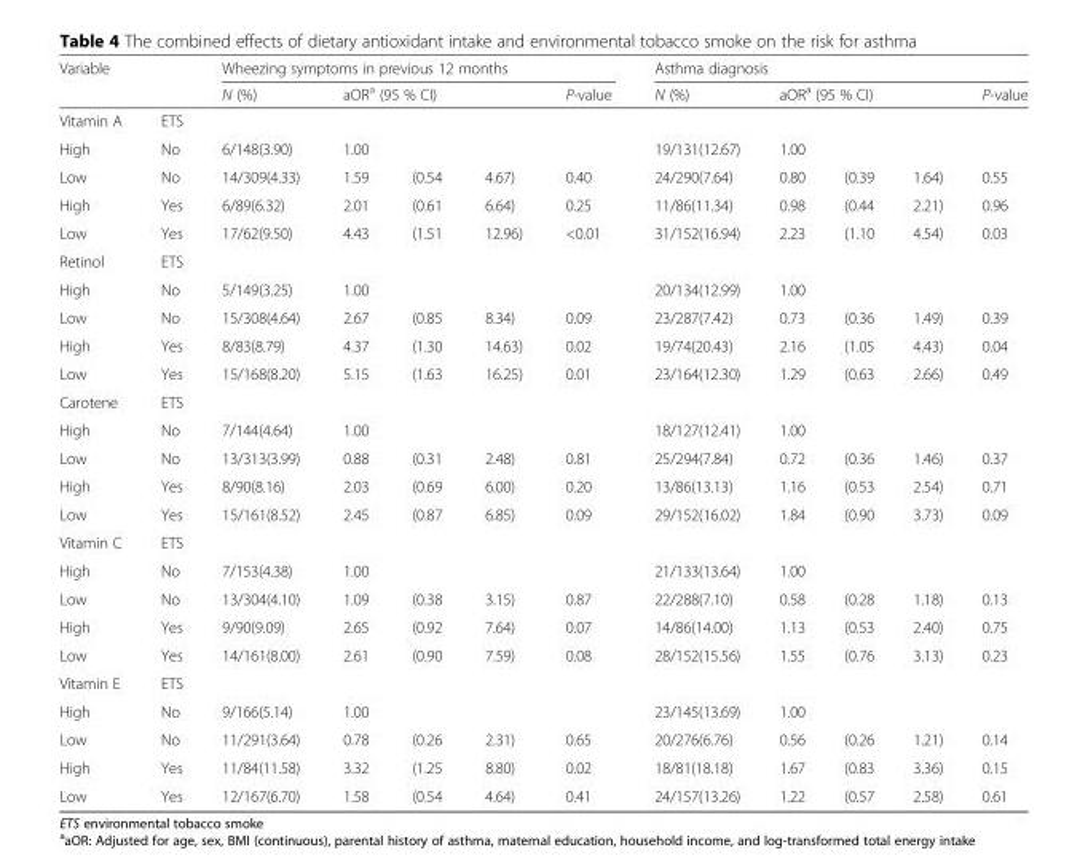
<table><thead><tr><td rowspan="2" colspan="2">Variable</td><td colspan="5">Wheezing symptoms in previous 12 months</td><td colspan="5">Asthma diagnosis</td></tr><tr><td rowspan="2">N (%)</td><td colspan="3">aOR<sup>a</sup> (95 % CI)</td><td rowspan="2">P-value</td><td rowspan="2">N (%)</td><td colspan="3">aOR<sup>a</sup> (95 % CI)</td><td rowspan="2">P-value</td></tr><tr><td>Vitamin A</td><td>ETS</td><td></td><td></td><td></td><td></td><td></td><td></td></tr></thead><tbody><tr><td>High</td><td>No</td><td>6/148(3.90)</td><td>1.00</td><td></td><td></td><td></td><td>19/131(12.67)</td><td>1.00</td><td></td><td></td><td></td></tr><tr><td>Low</td><td>No</td><td>14/309(4.33)</td><td>1.59</td><td>(0.54</td><td>4.67)</td><td>0.40</td><td>24/290(7.64)</td><td>0.80</td><td>(0.39</td><td>1.64)</td><td>0.55</td></tr><tr><td>High</td><td>Yes</td><td>6/89(6.32)</td><td>2.01</td><td>(0.61</td><td>6.64)</td><td>0.25</td><td>11/86(11.34)</td><td>0.98</td><td>(0.44</td><td>2.21)</td><td>0.96</td></tr><tr><td>Low</td><td>Yes</td><td>17/62(9.50)</td><td>4.43</td><td>(1.51</td><td>12.96)</td><td>&lt;0.01</td><td>31/152(16.94)</td><td>2.23</td><td>(1.10</td><td>4.54)</td><td>0.03</td></tr><tr><td>Retinol</td><td>ETS</td><td></td><td></td><td></td><td></td><td></td><td></td><td></td><td></td><td></td><td></td></tr><tr><td>High</td><td>No</td><td>5/149(3.25)</td><td>1.00</td><td></td><td></td><td></td><td>20/134(12.99)</td><td>1.00</td><td></td><td></td><td></td></tr><tr><td>Low</td><td>No</td><td>15/308(4.64)</td><td>2.67</td><td>(0.85</td><td>8.34)</td><td>0.09</td><td>23/287(7.42)</td><td>0.73</td><td>(0.36</td><td>1.49)</td><td>0.39</td></tr><tr><td>High</td><td>Yes</td><td>8/83(8.79)</td><td>4.37</td><td>(1.30</td><td>14.63)</td><td>0.02</td><td>19/74(20.43)</td><td>2.16</td><td>(1.05</td><td>4.43)</td><td>0.04</td></tr><tr><td>Low</td><td>Yes</td><td>15/168(8.20)</td><td>5.15</td><td>(1.63</td><td>16.25)</td><td>0.01</td><td>23/164(12.30)</td><td>1.29</td><td>(0.63</td><td>2.66)</td><td>0.49</td></tr><tr><td>Carotene</td><td>ETS</td><td></td><td></td><td></td><td></td><td></td><td></td><td></td><td></td><td></td><td></td></tr><tr><td>High</td><td>No</td><td>7/144(4.64)</td><td>1.00</td><td></td><td></td><td></td><td>18/127(12.41)</td><td>1.00</td><td></td><td></td><td></td></tr><tr><td>Low</td><td>No</td><td>13/313(3.99)</td><td>0.88</td><td>(0.31</td><td>2.48)</td><td>0.81</td><td>25/294(7.84)</td><td>0.72</td><td>(0.36</td><td>1.46)</td><td>0.37</td></tr><tr><td>High</td><td>Yes</td><td>8/90(8.16)</td><td>2.03</td><td>(0.69</td><td>6.00)</td><td>0.20</td><td>13/86(13.13)</td><td>1.16</td><td>(0.53</td><td>2.54)</td><td>0.71</td></tr><tr><td>Low</td><td>Yes</td><td>15/161(8.52)</td><td>2.45</td><td>(0.87</td><td>6.85)</td><td>0.09</td><td>29/152(16.02)</td><td>1.84</td><td>(0.90</td><td>3.73)</td><td>0.09</td></tr><tr><td>Vitamin C</td><td>ETS</td><td></td><td></td><td></td><td></td><td></td><td></td><td></td><td></td><td></td><td></td></tr><tr><td>High</td><td>No</td><td>7/153(4.38)</td><td>1.00</td><td></td><td></td><td></td><td>21/133(13.64)</td><td>1.00</td><td></td><td></td><td></td></tr><tr><td>Low</td><td>No</td><td>13/304(4.10)</td><td>1.09</td><td>(0.38</td><td>3.15)</td><td>0.87</td><td>22/288(7.10)</td><td>0.58</td><td>(0.28</td><td>1.18)</td><td>0.13</td></tr><tr><td>High</td><td>Yes</td><td>9/90(9.09)</td><td>2.65</td><td>(0.92</td><td>7.64)</td><td>0.07</td><td>14/86(14.00)</td><td>1.13</td><td>(0.53</td><td>2.40)</td><td>0.75</td></tr><tr><td>Low</td><td>Yes</td><td>14/161(8.00)</td><td>2.61</td><td>(0.90</td><td>7.59)</td><td>0.08</td><td>28/152(15.56)</td><td>1.55</td><td>(0.76</td><td>3.13)</td><td>0.23</td></tr><tr><td>Vitamin E</td><td>ETS</td><td></td><td></td><td></td><td></td><td></td><td></td><td></td><td></td><td></td><td></td></tr><tr><td>High</td><td>No</td><td>9/166(5.14)</td><td>1.00</td><td></td><td></td><td></td><td>23/145(13.69)</td><td>1.00</td><td></td><td></td><td></td></tr><tr><td>Low</td><td>No</td><td>11/291(3.64)</td><td>0.78</td><td>(0.26</td><td>2.31)</td><td>0.65</td><td>20/276(6.76)</td><td>0.56</td><td>(0.26</td><td>1.21)</td><td>0.14</td></tr><tr><td>High</td><td>Yes</td><td>11/84(11.58)</td><td>3.32</td><td>(1.25</td><td>8.80)</td><td>0.02</td><td>18/81(18.18)</td><td>1.67</td><td>(0.83</td><td>3.36)</td><td>0.15</td></tr><tr><td>Low</td><td>Yes</td><td>12/167(6.70)</td><td>1.58</td><td>(0.54</td><td>4.64)</td><td>0.41</td><td>24/157(13.26)</td><td>1.22</td><td>(0.57</td><td>2.58)</td><td>0.61</td></tr></tbody></table>